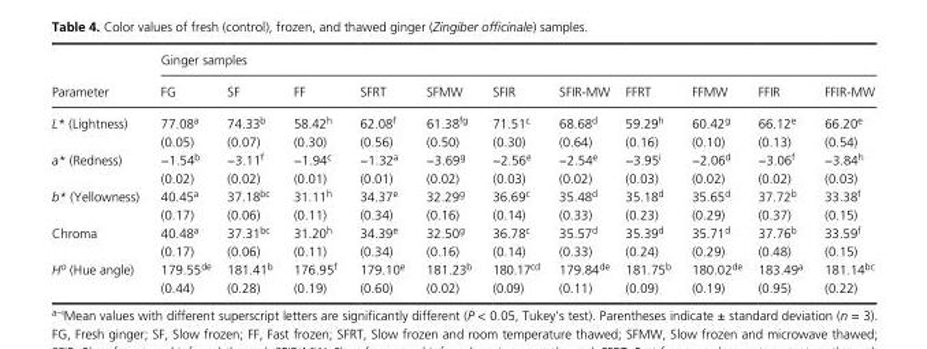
<table><thead><tr><td rowspan="2">Parameter</td><td colspan="11">Ginger samples</td></tr><tr><td>FG</td><td>SF</td><td>FF</td><td>SFRT</td><td>SFMW</td><td>SFIR</td><td>SFIR- MW</td><td>FFRT</td><td>FFMW</td><td>FFIR</td><td>FFIR- MW</td></tr></thead><tbody><tr><td>L* (Lightness)</td><td>77.08<sup>a</sup> (0.05)</td><td>74.33<sup>b</sup> (0.07)</td><td>58.42<sup>h</sup> (0.30)</td><td>62.08<sup>f</sup> (0.56)</td><td>61.38<sup>fg</sup> (0.50)</td><td>71.51<sup>c</sup> (0.30)</td><td>68.68<sup>d</sup> (0.64)</td><td>59.29<sup>h</sup> (0.16)</td><td>60.42<sup>g</sup> (0.10)</td><td>66.12<sup>e</sup> (0.13)</td><td>66.20<sup>e</sup> (0.54)</td></tr><tr><td>a* (Redness)</td><td>−1.54<sup>b</sup> (0.02)</td><td>−3.11<sup>f</sup> (0.02)</td><td>−1.94<sup>c</sup> (0.01)</td><td>−1.32<sup>a</sup> (0.01)</td><td>−3.69<sup>g</sup> (0.02)</td><td>−2.56<sup>e</sup> (0.03)</td><td>−2.54<sup>e</sup> (0.02)</td><td>−3.95<sup>i</sup> (0.03)</td><td>−2.06<sup>d</sup> (0.02)</td><td>−3.06<sup>f</sup> (0.02)</td><td>−3.84<sup>h</sup> (0.03)</td></tr><tr><td>b* (Yellowness)</td><td>40.45<sup>a</sup> (0.17)</td><td>37.18<sup>bc</sup> (0.06)</td><td>31.11<sup>h</sup> (0.11)</td><td>34.37<sup>e</sup> (0.34)</td><td>32.29<sup>g</sup> (0.16)</td><td>36.69<sup>c</sup> (0.14)</td><td>35.48<sup>d</sup> (0.33)</td><td>35.18<sup>d</sup> (0.23)</td><td>35.65<sup>d</sup> (0.29)</td><td>37.72<sup>b</sup> (0.37)</td><td>33.38<sup>f</sup> (0.15)</td></tr><tr><td>Chroma</td><td>40.48<sup>a</sup> (0.17)</td><td>37.31<sup>bc</sup> (0.06)</td><td>31.20<sup>h</sup> (0.11)</td><td>34.39<sup>e</sup> (0.34)</td><td>32.50<sup>g</sup> (0.16)</td><td>36.78<sup>c</sup> (0.14)</td><td>35.57<sup>d</sup> (0.33)</td><td>35.39<sup>d</sup> (0.24)</td><td>35.71<sup>d</sup> (0.29)</td><td>37.76<sup>b</sup> (0.48)</td><td>33.59<sup>f</sup> (0.15)</td></tr><tr><td>H<sup>o</sup> (Hue angle)</td><td>179.55<sup>de</sup> (0.44)</td><td>181.41<sup>b</sup> (0.28)</td><td>176.95<sup>f</sup> (0.19)</td><td>179.10<sup>e</sup> (0.60)</td><td>181.23<sup>b</sup> (0.02)</td><td>180.17<sup>cd</sup> (0.09)</td><td>179.84<sup>de</sup> (0.11)</td><td>181.75<sup>b</sup> (0.09)</td><td>180.02<sup>de</sup> (0.19)</td><td>183.49<sup>a</sup> (0.95)</td><td>181.14<sup>bc</sup> (0.22)</td></tr></tbody></table>